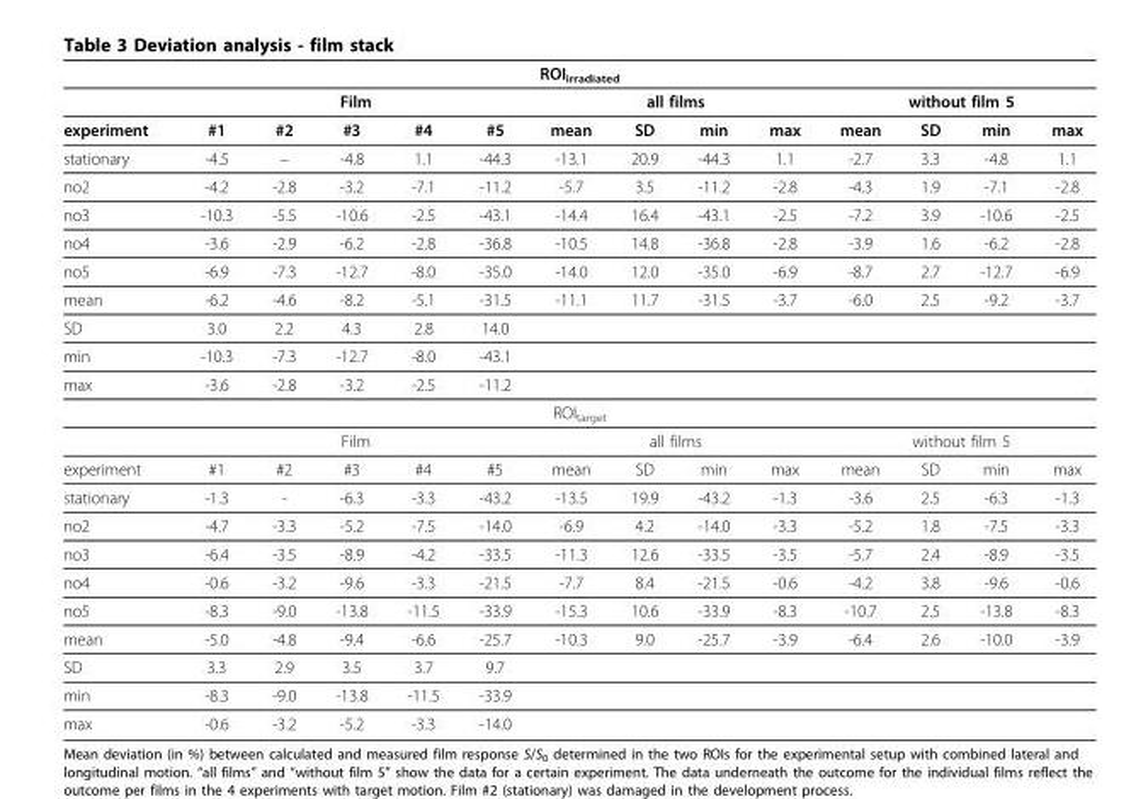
<table><thead><tr><td colspan="14">ROI<sub>irradiated</sub></td></tr><tr><td rowspan="2">experiment</td><td colspan="5">Film</td><td colspan="4">all films</td><td colspan="4">without film 5</td></tr><tr><td>#1</td><td>#2</td><td>#3</td><td>#4</td><td>#5</td><td>mean</td><td>SD</td><td>min</td><td>max</td><td>mean</td><td>SD</td><td>min</td><td>max</td></tr></thead><tbody><tr><td>stationary</td><td>-4.5</td><td>–</td><td>-4.8</td><td>1.1</td><td>-44.3</td><td>-13.1</td><td>20.9</td><td>-44.3</td><td>1.1</td><td>-2.7</td><td>3.3</td><td>-4.8</td><td>1.1</td></tr><tr><td>no2</td><td>-4.2</td><td>-2.8</td><td>-3.2</td><td>-7.1</td><td>-11.2</td><td>-5.7</td><td>3.5</td><td>-11.2</td><td>-2.8</td><td>-4.3</td><td>1.9</td><td>-7.1</td><td>-2.8</td></tr><tr><td>no3</td><td>-10.3</td><td>-5.5</td><td>-10.6</td><td>-2.5</td><td>-43.1</td><td>-14.4</td><td>16.4</td><td>-43.1</td><td>-2.5</td><td>-7.2</td><td>3.9</td><td>-10.6</td><td>-2.5</td></tr><tr><td>no4</td><td>-3.6</td><td>-2.9</td><td>-6.2</td><td>-2.8</td><td>-36.8</td><td>-10.5</td><td>14.8</td><td>-36.8</td><td>-2.8</td><td>-3.9</td><td>1.6</td><td>-6.2</td><td>-2.8</td></tr><tr><td>no5</td><td>-6.9</td><td>-7.3</td><td>-12.7</td><td>-8.0</td><td>-35.0</td><td>-14.0</td><td>12.0</td><td>-35.0</td><td>-6.9</td><td>-8.7</td><td>2.7</td><td>-12.7</td><td>-6.9</td></tr><tr><td>mean</td><td>-6.2</td><td>-4.6</td><td>-8.2</td><td>-5.1</td><td>-31.5</td><td>-11.1</td><td>11.7</td><td>-31.5</td><td>-3.7</td><td>-6.0</td><td>2.5</td><td>-9.2</td><td>-3.7</td></tr><tr><td>SD</td><td>3.0</td><td>2.2</td><td>4.3</td><td>2.8</td><td>14.0</td><td></td><td></td><td></td><td></td><td></td><td></td><td></td><td></td></tr><tr><td>min</td><td>-10.3</td><td>-7.3</td><td>-12.7</td><td>-8.0</td><td>-43.1</td><td></td><td></td><td></td><td></td><td></td><td></td><td></td><td></td></tr><tr><td>max</td><td>-3.6</td><td>-2.8</td><td>-3.2</td><td>-2.5</td><td>-11.2</td><td></td><td></td><td></td><td></td><td></td><td></td><td></td><td></td></tr><tr><td colspan="14">ROI<sub>target</sub></td></tr><tr><td></td><td colspan="5">Film</td><td colspan="4">all films</td><td colspan="4">without film 5</td></tr><tr><td>experiment</td><td>#1</td><td>#2</td><td>#3</td><td>#4</td><td>#5</td><td>mean</td><td>SD</td><td>min</td><td>max</td><td>mean</td><td>SD</td><td>min</td><td>max</td></tr><tr><td>stationary</td><td>-1.3</td><td>-</td><td>-6.3</td><td>-3.3</td><td>-43.2</td><td>-13.5</td><td>19.9</td><td>-43.2</td><td>-1.3</td><td>-3.6</td><td>2.5</td><td>-6.3</td><td>-1.3</td></tr><tr><td>no2</td><td>-4.7</td><td>-3.3</td><td>-5.2</td><td>-7.5</td><td>-14.0</td><td>-6.9</td><td>4.2</td><td>-14.0</td><td>-3.3</td><td>-5.2</td><td>1.8</td><td>-7.5</td><td>-3.3</td></tr><tr><td>no3</td><td>-6.4</td><td>-3.5</td><td>-8.9</td><td>-4.2</td><td>-33.5</td><td>-11.3</td><td>12.6</td><td>-33.5</td><td>-3.5</td><td>-5.7</td><td>2.4</td><td>-8.9</td><td>-3.5</td></tr><tr><td>no4</td><td>-0.6</td><td>-3.2</td><td>-9.6</td><td>-3.3</td><td>-21.5</td><td>-7.7</td><td>8.4</td><td>-21.5</td><td>-0.6</td><td>-4.2</td><td>3.8</td><td>-9.6</td><td>-0.6</td></tr><tr><td>no5</td><td>-8.3</td><td>-9.0</td><td>-13.8</td><td>-11.5</td><td>-33.9</td><td>-15.3</td><td>10.6</td><td>-33.9</td><td>-8.3</td><td>-10.7</td><td>2.5</td><td>-13.8</td><td>-8.3</td></tr><tr><td>mean</td><td>-5.0</td><td>-4.8</td><td>-9.4</td><td>-6.6</td><td>-25.7</td><td>-10.3</td><td>9.0</td><td>-25.7</td><td>-3.9</td><td>-6.4</td><td>2.6</td><td>-10.0</td><td>-3.9</td></tr><tr><td>SD</td><td>3.3</td><td>2.9</td><td>3.5</td><td>3.7</td><td>9.7</td><td></td><td></td><td></td><td></td><td></td><td></td><td></td><td></td></tr><tr><td>min</td><td>-8.3</td><td>-9.0</td><td>-13.8</td><td>-11.5</td><td>-33.9</td><td></td><td></td><td></td><td></td><td></td><td></td><td></td><td></td></tr><tr><td>max</td><td>-0.6</td><td>-3.2</td><td>-5.2</td><td>-3.3</td><td>-14.0</td><td></td><td></td><td></td><td></td><td></td><td></td><td></td><td></td></tr></tbody></table>